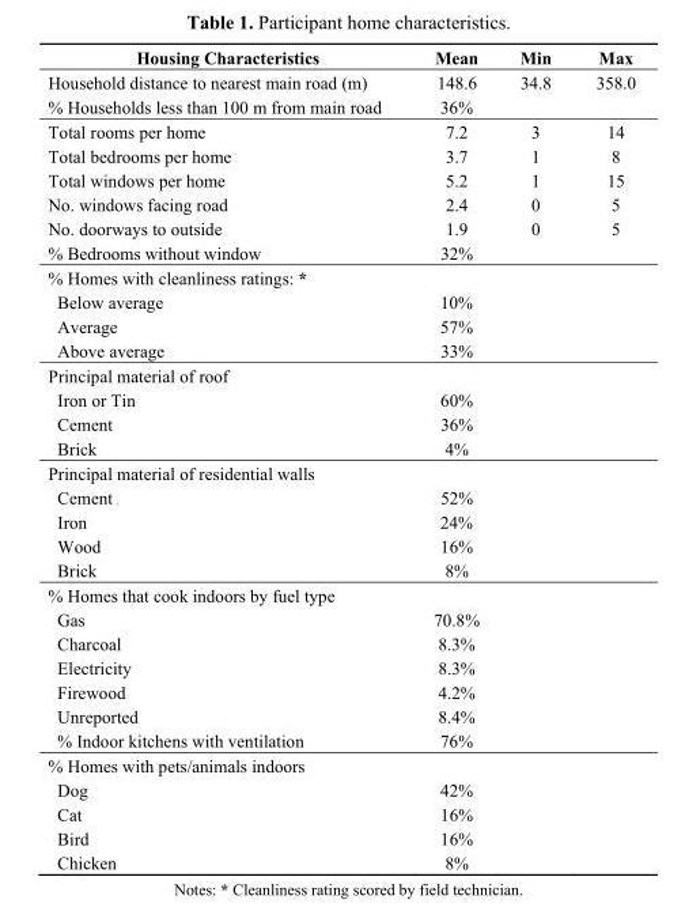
<table><thead><tr><td>Housing Characteristics</td><td>Mean</td><td>Min</td><td>Max</td></tr></thead><tbody><tr><td>Household distance to nearest main road (m)</td><td>148.6</td><td>34.8</td><td>358.0</td></tr><tr><td>% Households less than 100 m from main road</td><td>36%</td><td></td><td></td></tr><tr><td>Total rooms per home</td><td>7.2</td><td>3</td><td>14</td></tr><tr><td>Total bedrooms per home</td><td>3.7</td><td>1</td><td>8</td></tr><tr><td>Total windows per home</td><td>5.2</td><td>1</td><td>15</td></tr><tr><td>No. windows facing road</td><td>2.4</td><td>0</td><td>5</td></tr><tr><td>No. doorways to outside</td><td>1.9</td><td>0</td><td>5</td></tr><tr><td>% Bedrooms without window</td><td>32%</td><td></td><td></td></tr><tr><td colspan="4">% Homes with cleanliness ratings: *</td></tr><tr><td>Below average</td><td>10%</td><td></td><td></td></tr><tr><td>Average</td><td>57%</td><td></td><td></td></tr><tr><td>Above average</td><td>33%</td><td></td><td></td></tr><tr><td colspan="4">Principal material of roof</td></tr><tr><td>Iron or Tin</td><td>60%</td><td></td><td></td></tr><tr><td>Cement</td><td>36%</td><td></td><td></td></tr><tr><td>Brick</td><td>4%</td><td></td><td></td></tr><tr><td colspan="4">Principal material of residential walls</td></tr><tr><td>Cement</td><td>52%</td><td></td><td></td></tr><tr><td>Iron</td><td>24%</td><td></td><td></td></tr><tr><td>Wood</td><td>16%</td><td></td><td></td></tr><tr><td>Brick</td><td>8%</td><td></td><td></td></tr><tr><td colspan="4">% Homes that cook indoors by fuel type</td></tr><tr><td>Gas</td><td>70.8%</td><td></td><td></td></tr><tr><td>Charcoal</td><td>8.3%</td><td></td><td></td></tr><tr><td>Electricity</td><td>8.3%</td><td></td><td></td></tr><tr><td>Firewood</td><td>4.2%</td><td></td><td></td></tr><tr><td>Unreported</td><td>8.4%</td><td></td><td></td></tr><tr><td>% Indoor kitchens with ventilation</td><td>76%</td><td></td><td></td></tr><tr><td colspan="4">% Homes with pets/animals indoors</td></tr><tr><td>Dog</td><td>42%</td><td></td><td></td></tr><tr><td>Cat</td><td>16%</td><td></td><td></td></tr><tr><td>Bird</td><td>16%</td><td></td><td></td></tr><tr><td>Chicken</td><td>8%</td><td></td><td></td></tr></tbody></table>